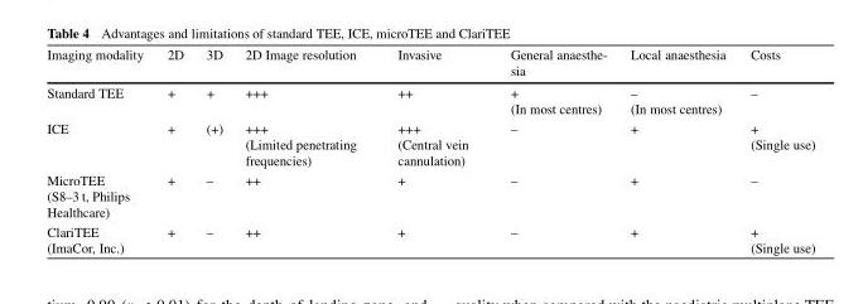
<table><thead><tr><td>Imaging modality</td><td>2D</td><td>3D</td><td>2D Image resolution</td><td>Invasive</td><td>General anaesthe- sia</td><td>Local anaesthesia</td><td>Costs</td></tr></thead><tbody><tr><td>Standard TEE</td><td>+</td><td>+</td><td>+++</td><td>++</td><td>+ (In most centres)</td><td>– (In most centres)</td><td>–</td></tr><tr><td>ICE</td><td>+</td><td>(+)</td><td>+++ (Limited penetrating frequencies)</td><td>+++ (Central vein cannulation)</td><td>–</td><td>+</td><td>+ (Single use)</td></tr><tr><td>MicroTEE (S8–3 t, Philips Healthcare)</td><td>+</td><td>–</td><td>++</td><td>+</td><td>–</td><td>+</td><td>–</td></tr><tr><td>ClariTEE (ImaCor, Inc.)</td><td>+</td><td>–</td><td>++</td><td>+</td><td>–</td><td>+</td><td>+ (Single use)</td></tr></tbody></table>